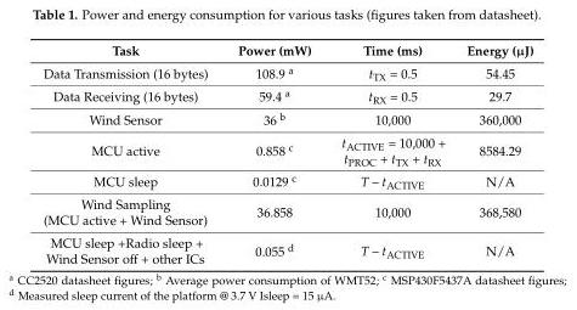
<table><thead><tr><td>Task</td><td>Power (mW)</td><td>Time (ms)</td><td>Energy (µJ)</td></tr></thead><tbody><tr><td>Data Transmission (16 bytes)</td><td>108.9 <sup>a</sup></td><td>t<sub>TX</sub> = 0.5</td><td>54.45</td></tr><tr><td>Data Receiving (16 bytes)</td><td>59.4 <sup>a</sup></td><td>t<sub>RX</sub> = 0.5</td><td>29.7</td></tr><tr><td>Wind Sensor</td><td>36 <sup>b</sup></td><td>10,000</td><td>360,000</td></tr><tr><td>MCU active</td><td>0.858 <sup>c</sup></td><td>t<sub>ACTIVE</sub> = 10,000 + t<sub>PROC</sub> + t<sub>TX</sub> + t<sub>RX</sub></td><td>8584.29</td></tr><tr><td>MCU sleep</td><td>0.0129 <sup>c</sup></td><td>T – t<sub>ACTIVE</sub></td><td>N/A</td></tr><tr><td>Wind Sampling (MCU active + Wind Sensor)</td><td>36.858</td><td>10,000</td><td>368,580</td></tr><tr><td>MCU sleep +Radio sleep + Wind Sensor off + other ICs</td><td>0.055 <sup>d</sup></td><td>T – t<sub>ACTIVE</sub></td><td>N/A</td></tr></tbody></table>